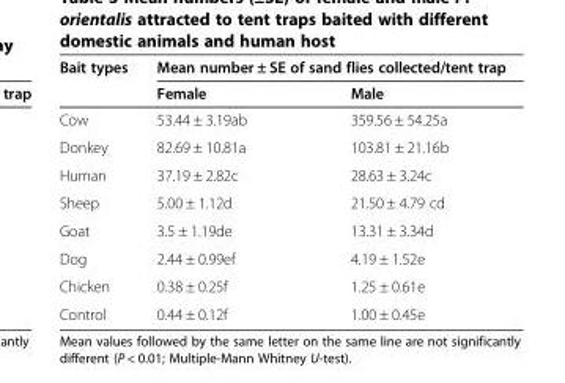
<table><thead><tr><td rowspan="2">Bait types</td><td colspan="2">Mean number ± SE of sand flies collected/tent trap</td></tr><tr><td>Female</td><td>Male</td></tr></thead><tbody><tr><td>Cow</td><td>53.44 ± 3.19ab</td><td>359.56 ± 54.25a</td></tr><tr><td>Donkey</td><td>82.69 ± 10.81a</td><td>103.81 ± 21.16b</td></tr><tr><td>Human</td><td>37.19 ± 2.82c</td><td>28.63 ± 3.24c</td></tr><tr><td>Sheep</td><td>5.00 ± 1.12d</td><td>21.50 ± 4.79 cd</td></tr><tr><td>Goat</td><td>3.5 ± 1.19de</td><td>13.31 ± 3.34d</td></tr><tr><td>Dog</td><td>2.44 ± 0.99ef</td><td>4.19 ± 1.52e</td></tr><tr><td>Chicken</td><td>0.38 ± 0.25f</td><td>1.25 ± 0.61e</td></tr><tr><td>Control</td><td>0.44 ± 0.12f</td><td>1.00 ± 0.45e</td></tr></tbody></table>